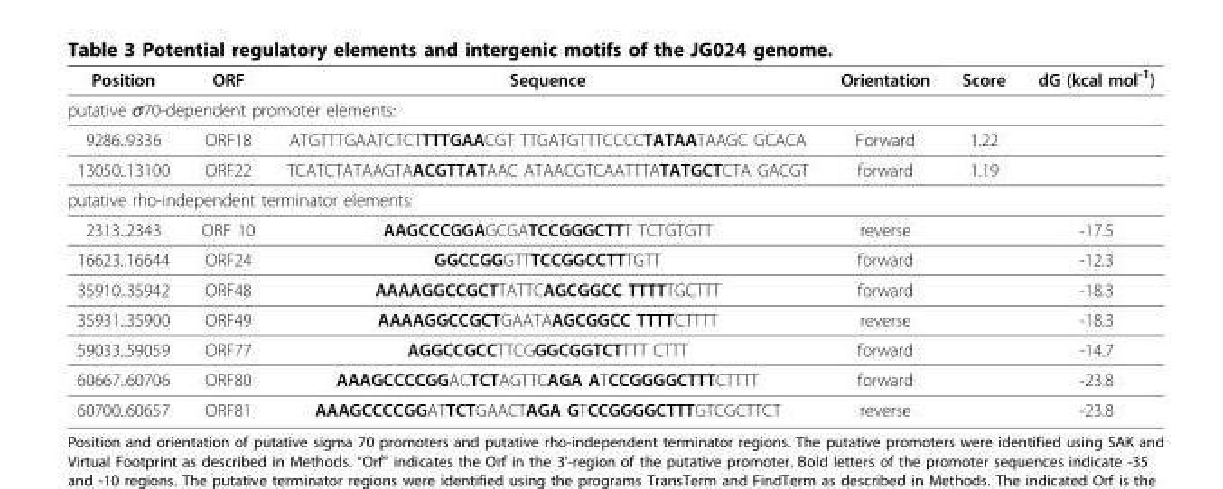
<table><thead><tr><td>Position</td><td>ORF</td><td>Sequence</td><td>Orientation</td><td>Score</td><td>dG (kcal mol<sup>-1</sup>)</td></tr></thead><tbody><tr><td colspan="6">putative σ70-dependent promoter elements:</td></tr><tr><td>9286..9336</td><td>ORF18</td><td>ATGTTTGAATCTCTTTTGAACGT TTGATGTTTCCCCTATAATAAGC GCACA</td><td>Forward</td><td>1.22</td><td></td></tr><tr><td>13050..13100</td><td>ORF22</td><td>TCATCTATAAGTAACGTTATAAC ATAACGTCAATTTATATGCTCTA GACGT</td><td>forward</td><td>1.19</td><td></td></tr><tr><td colspan="6">putative rho-independent terminator elements:</td></tr><tr><td>2313..2343</td><td>ORF 10</td><td>AAGCCCGGAGCGATCCGGGCTTT TCTGTGTT</td><td>reverse</td><td></td><td>-17.5</td></tr><tr><td>16623..16644</td><td>ORF24</td><td>GGCCGGGTTTCCGGCCTTTGTT</td><td>forward</td><td></td><td>-12.3</td></tr><tr><td>35910..35942</td><td>ORF48</td><td>AAAAGGCCGCTTATTCAGCGGCC TTTTTGCTTT</td><td>forward</td><td></td><td>-18.3</td></tr><tr><td>35931..35900</td><td>ORF49</td><td>AAAAGGCCGCTGAATAAGCGGCC TTTTCTTTT</td><td>reverse</td><td></td><td>-18.3</td></tr><tr><td>59033..59059</td><td>ORF77</td><td>AGGCCGCCTTCGGGCGGTCTTTT CTTT</td><td>forward</td><td></td><td>-14.7</td></tr><tr><td>60667..60706</td><td>ORF80</td><td>AAAGCCCCGGACTCTAGTTCAGA ATCCGGGGCTTTCTTTT</td><td>forward</td><td></td><td>-23.8</td></tr><tr><td>60700..60657</td><td>ORF81</td><td>AAAGCCCCGGATTCTGAACTAGA GTCCGGGGCTTTGTCGCTTCT</td><td>reverse</td><td></td><td>-23.8</td></tr></tbody></table>